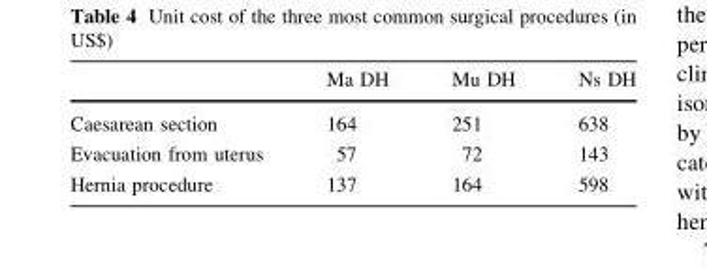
<table><thead><tr><td></td><td>Ma DH</td><td>Mu DH</td><td>Ns DH</td></tr></thead><tbody><tr><td>Caesarean section</td><td>164</td><td>251</td><td>638</td></tr><tr><td>Evacuation from uterus</td><td>57</td><td>72</td><td>143</td></tr><tr><td>Hernia procedure</td><td>137</td><td>164</td><td>598</td></tr></tbody></table>